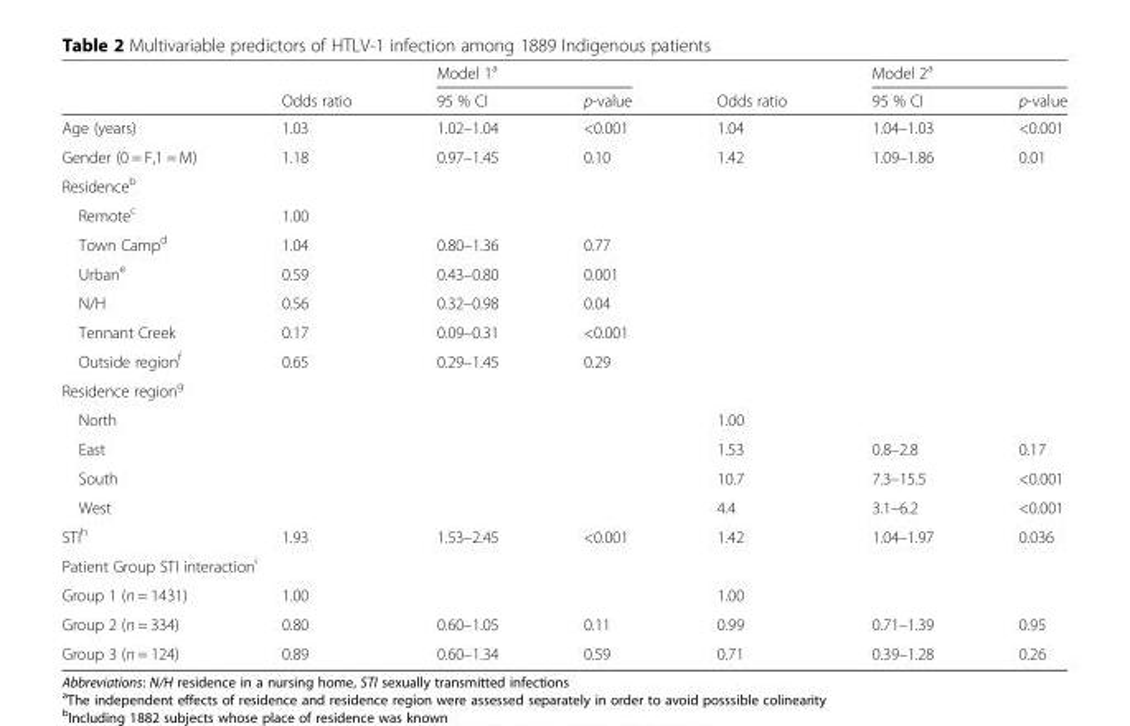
<table><thead><tr><td rowspan="2"></td><td rowspan="2">Odds ratio</td><td colspan="2">Model 1<sup>a</sup></td><td rowspan="2">Odds ratio</td><td colspan="2">Model 2<sup>a</sup></td></tr><tr><td>95 % CI</td><td>p-value</td><td>95 % CI</td><td>p-value</td></tr></thead><tbody><tr><td>Age (years)</td><td>1.03</td><td>1.02–1.04</td><td>&lt;0.001</td><td>1.04</td><td>1.04–1.03</td><td>&lt;0.001</td></tr><tr><td>Gender (0 = F,1 = M)</td><td>1.18</td><td>0.97–1.45</td><td>0.10</td><td>1.42</td><td>1.09–1.86</td><td>0.01</td></tr><tr><td colspan="7">Residence<sup>b</sup></td></tr><tr><td>Remote<sup>c</sup></td><td>1.00</td><td></td><td></td><td></td><td></td><td></td></tr><tr><td>Town Camp<sup>d</sup></td><td>1.04</td><td>0.80–1.36</td><td>0.77</td><td></td><td></td><td></td></tr><tr><td>Urban<sup>e</sup></td><td>0.59</td><td>0.43–0.80</td><td>0.001</td><td></td><td></td><td></td></tr><tr><td>N/H</td><td>0.56</td><td>0.32–0.98</td><td>0.04</td><td></td><td></td><td></td></tr><tr><td>Tennant Creek</td><td>0.17</td><td>0.09–0.31</td><td>&lt;0.001</td><td></td><td></td><td></td></tr><tr><td>Outside region<sup>f</sup></td><td>0.65</td><td>0.29–1.45</td><td>0.29</td><td></td><td></td><td></td></tr><tr><td colspan="7">Residence region<sup>g</sup></td></tr><tr><td>North</td><td></td><td></td><td></td><td>1.00</td><td></td><td></td></tr><tr><td>East</td><td></td><td></td><td></td><td>1.53</td><td>0.8–2.8</td><td>0.17</td></tr><tr><td>South</td><td></td><td></td><td></td><td>10.7</td><td>7.3–15.5</td><td>&lt;0.001</td></tr><tr><td>West</td><td></td><td></td><td></td><td>4.4</td><td>3.1–6.2</td><td>&lt;0.001</td></tr><tr><td>STI<sup>h</sup></td><td>1.93</td><td>1.53–2.45</td><td>&lt;0.001</td><td>1.42</td><td>1.04–1.97</td><td>0.036</td></tr><tr><td colspan="7">Patient Group STI interaction<sup>i</sup></td></tr><tr><td>Group 1 (n = 1431)</td><td>1.00</td><td></td><td></td><td>1.00</td><td></td><td></td></tr><tr><td>Group 2 (n = 334)</td><td>0.80</td><td>0.60–1.05</td><td>0.11</td><td>0.99</td><td>0.71–1.39</td><td>0.95</td></tr><tr><td>Group 3 (n = 124)</td><td>0.89</td><td>0.60–1.34</td><td>0.59</td><td>0.71</td><td>0.39–1.28</td><td>0.26</td></tr></tbody></table>